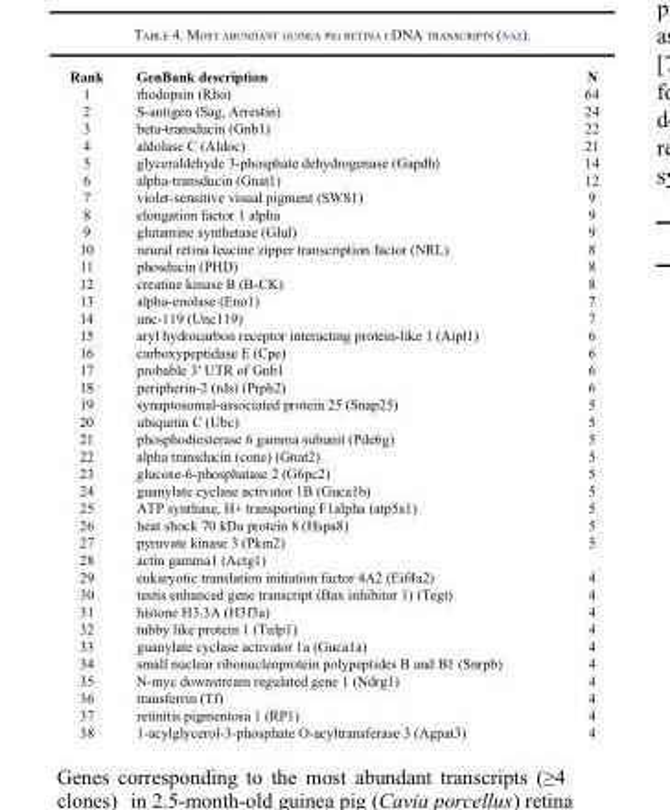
<table><thead><tr><td>Rank</td><td>GenBank description</td><td>N</td></tr></thead><tbody><tr><td>1</td><td>rhodopsin (Rho)</td><td>64</td></tr><tr><td>2</td><td>S-antigen (Sag, Arrestin)</td><td>24</td></tr><tr><td>3</td><td>beta-transducin (Gnb1)</td><td>22</td></tr><tr><td>4</td><td>aldolase C (Aldoc)</td><td>21</td></tr><tr><td>5</td><td>glyceraldehyde 3-phosphate dehydrogenase (Gapdh)</td><td>14</td></tr><tr><td>6</td><td>alpha-transducin (Gnat1)</td><td>12</td></tr><tr><td>7</td><td>violet-sensitive visual pigment (SWS1)</td><td>9</td></tr><tr><td>8</td><td>elongation factor 1 alpha</td><td>9</td></tr><tr><td>9</td><td>glutamine synthetase (Glul)</td><td>9</td></tr><tr><td>10</td><td>neural retina leucine zipper transcription factor (NRL)</td><td>8</td></tr><tr><td>11</td><td>phosducin (PHD)</td><td>8</td></tr><tr><td>12</td><td>creatine kinase B (B-CK)</td><td>8</td></tr><tr><td>13</td><td>alpha-enolase (Eno1)</td><td>7</td></tr><tr><td>14</td><td>unc-119 (Unc119)</td><td>7</td></tr><tr><td>15</td><td>aryl hydrocarbon receptor interacting protein-like 1 (Aipl1)</td><td>6</td></tr><tr><td>16</td><td>carboxypeptidase E (Cpe)</td><td>6</td></tr><tr><td>17</td><td>probable 3′ UTR of Gnb1</td><td>6</td></tr><tr><td>18</td><td>peripherin-2 (rds) (Prph2)</td><td>6</td></tr><tr><td>19</td><td>synaptosomal-associated protein 25 (Snap25)</td><td>5</td></tr><tr><td>20</td><td>ubiquitin C (Ubc)</td><td>5</td></tr><tr><td>21</td><td>phosphodiesterase 6 gamma subunit (Pde6g)</td><td>5</td></tr><tr><td>22</td><td>alpha transducin (cone) (Gnat2)</td><td>5</td></tr><tr><td>23</td><td>glucose-6-phosphatase 2 (G6pc2)</td><td>5</td></tr><tr><td>24</td><td>guanylate cyclase activator 1B (Guca1b)</td><td>5</td></tr><tr><td>25</td><td>ATP synthase, H<sup>+</sup> transporting F1alpha (atp5a1)</td><td>5</td></tr><tr><td>26</td><td>heat shock 70 kDa protein 8 (Hspa8)</td><td>5</td></tr><tr><td>27</td><td>pyruvate kinase 3 (Pkm2)</td><td>5</td></tr><tr><td>28</td><td>actin gamma1 (Actg1)</td><td></td></tr><tr><td>29</td><td>eukaryotic translation initiation factor 4A2 (Eif4a2)</td><td>4</td></tr><tr><td>30</td><td>testis enhanced gene transcript (Bax inhibitor 1) (Tegt)</td><td>4</td></tr><tr><td>31</td><td>histone H3.3A (H3f3a)</td><td>4</td></tr><tr><td>32</td><td>tubby like protein 1 (Tulp1)</td><td>4</td></tr><tr><td>33</td><td>guanylate cyclase activator 1a (Guca1a)</td><td>4</td></tr><tr><td>34</td><td>small nuclear ribonucleoprotein polypeptides B and B1 (Snrpb)</td><td>4</td></tr><tr><td>35</td><td>N-myc downstream regulated gene 1 (Ndrg1)</td><td>4</td></tr><tr><td>36</td><td>transferrin (Tf)</td><td>4</td></tr><tr><td>37</td><td>retinitis pigmentosa 1 (RP1)</td><td>4</td></tr><tr><td>38</td><td>1-acylglycerol-3-phosphate O-acyltransferase 3 (Agpat3)</td><td>4</td></tr></tbody></table>